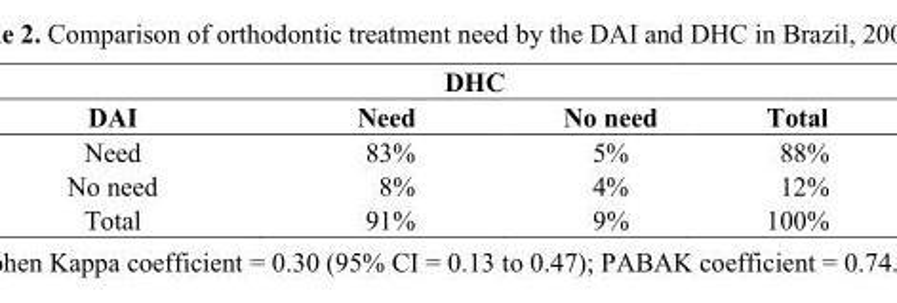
<table><thead><tr><td colspan="4">DHC</td></tr><tr><td>DAI</td><td>Need</td><td>No need</td><td>Total</td></tr></thead><tbody><tr><td>Need</td><td>83%</td><td>5%</td><td>88%</td></tr><tr><td>No need</td><td>8%</td><td>4%</td><td>12%</td></tr><tr><td>Total</td><td>91%</td><td>9%</td><td>100%</td></tr></tbody></table>